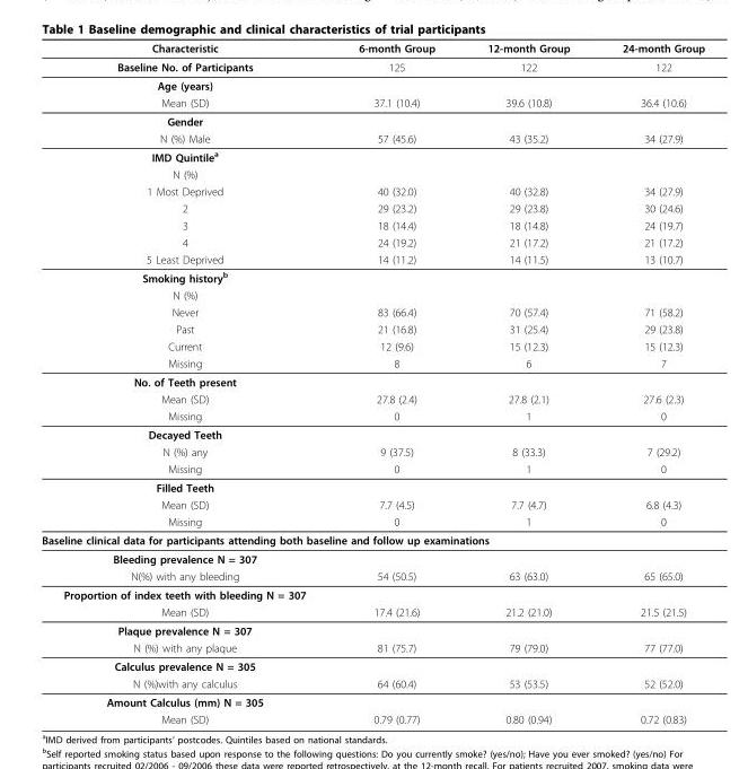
<table><thead><tr><td>Characteristic</td><td>6-month Group</td><td>12-month Group</td><td>24-month Group</td></tr></thead><tbody><tr><td>Baseline No. of Participants</td><td>125</td><td>122</td><td>122</td></tr><tr><td colspan="4">Age (years)</td></tr><tr><td>Mean (SD)</td><td>37.1 (10.4)</td><td>39.6 (10.8)</td><td>36.4 (10.6)</td></tr><tr><td colspan="4">Gender</td></tr><tr><td>N (%) Male</td><td>57 (45.6)</td><td>43 (35.2)</td><td>34 (27.9)</td></tr><tr><td colspan="4">IMD Quintile<sup>a</sup></td></tr><tr><td colspan="4">N (%)</td></tr><tr><td>1 Most Deprived</td><td>40 (32.0)</td><td>40 (32.8)</td><td>34 (27.9)</td></tr><tr><td>2</td><td>29 (23.2)</td><td>29 (23.8)</td><td>30 (24.6)</td></tr><tr><td>3</td><td>18 (14.4)</td><td>18 (14.8)</td><td>24 (19.7)</td></tr><tr><td>4</td><td>24 (19.2)</td><td>21 (17.2)</td><td>21 (17.2)</td></tr><tr><td>5 Least Deprived</td><td>14 (11.2)</td><td>14 (11.5)</td><td>13 (10.7)</td></tr><tr><td colspan="4">Smoking history<sup>b</sup></td></tr><tr><td colspan="4">N (%)</td></tr><tr><td>Never</td><td>83 (66.4)</td><td>70 (57.4)</td><td>71 (58.2)</td></tr><tr><td>Past</td><td>21 (16.8)</td><td>31 (25.4)</td><td>29 (23.8)</td></tr><tr><td>Current</td><td>12 (9.6)</td><td>15 (12.3)</td><td>15 (12.3)</td></tr><tr><td>Missing</td><td>8</td><td>6</td><td>7</td></tr><tr><td colspan="4">No. of Teeth present</td></tr><tr><td>Mean (SD)</td><td>27.8 (2.4)</td><td>27.8 (2.1)</td><td>27.6 (2.3)</td></tr><tr><td>Missing</td><td>0</td><td>1</td><td>0</td></tr><tr><td colspan="4">Decayed Teeth</td></tr><tr><td>N (%) any</td><td>9 (37.5)</td><td>8 (33.3)</td><td>7 (29.2)</td></tr><tr><td>Missing</td><td>0</td><td>1</td><td>0</td></tr><tr><td colspan="4">Filled Teeth</td></tr><tr><td>Mean (SD)</td><td>7.7 (4.5)</td><td>7.7 (4.7)</td><td>6.8 (4.3)</td></tr><tr><td>Missing</td><td>0</td><td>1</td><td>0</td></tr><tr><td colspan="4">Baseline clinical data for participants attending both baseline and follow up examinations</td></tr><tr><td colspan="4">Bleeding prevalence N = 307</td></tr><tr><td>N(%) with any bleeding</td><td>54 (50.5)</td><td>63 (63.0)</td><td>65 (65.0)</td></tr><tr><td colspan="4">Proportion of index teeth with bleeding N = 307</td></tr><tr><td>Mean (SD)</td><td>17.4 (21.6)</td><td>21.2 (21.0)</td><td>21.5 (21.5)</td></tr><tr><td colspan="4">Plaque prevalence N = 307</td></tr><tr><td>N (%) with any plaque</td><td>81 (75.7)</td><td>79 (79.0)</td><td>77 (77.0)</td></tr><tr><td colspan="4">Calculus prevalence N = 305</td></tr><tr><td>N (%)with any calculus</td><td>64 (60.4)</td><td>53 (53.5)</td><td>52 (52.0)</td></tr><tr><td colspan="4">Amount Calculus (mm) N = 305</td></tr><tr><td>Mean (SD)</td><td>0.79 (0.77)</td><td>0.80 (0.94)</td><td>0.72 (0.83)</td></tr></tbody></table>